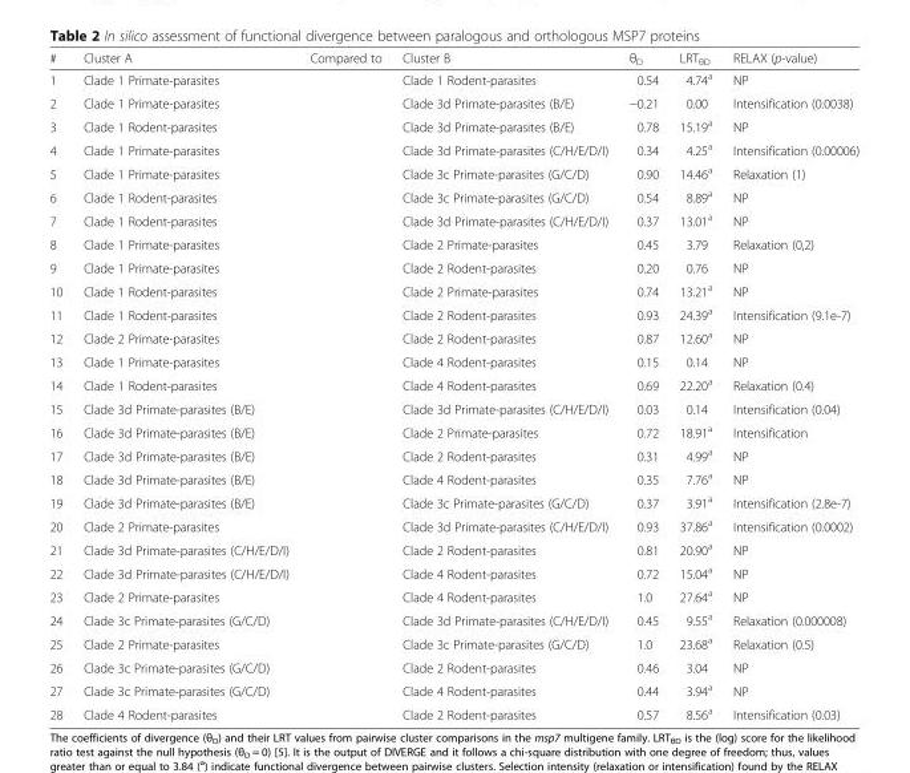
<table><thead><tr><td>#</td><td>Cluster A</td><td>Compared to</td><td>Cluster B</td><td>θ<sub>D</sub></td><td>LRT<sub>θD</sub></td><td>RELAX (p-value)</td></tr></thead><tbody><tr><td>1</td><td>Clade 1 Primate-parasites</td><td></td><td>Clade 1 Rodent-parasites</td><td>0.54</td><td>4.74<sup>a</sup></td><td>NP</td></tr><tr><td>2</td><td>Clade 1 Primate-parasites</td><td></td><td>Clade 3d Primate-parasites (B/E)</td><td>−0.21</td><td>0.00</td><td>Intensification (0.0038)</td></tr><tr><td>3</td><td>Clade 1 Rodent-parasites</td><td></td><td>Clade 3d Primate-parasites (B/E)</td><td>0.78</td><td>15.19<sup>a</sup></td><td>NP</td></tr><tr><td>4</td><td>Clade 1 Primate-parasites</td><td></td><td>Clade 3d Primate-parasites (C/H/E/D/I)</td><td>0.34</td><td>4.25<sup>a</sup></td><td>Intensification (0.00006)</td></tr><tr><td>5</td><td>Clade 1 Primate-parasites</td><td></td><td>Clade 3c Primate-parasites (G/C/D)</td><td>0.90</td><td>14.46<sup>a</sup></td><td>Relaxation (1)</td></tr><tr><td>6</td><td>Clade 1 Rodent-parasites</td><td></td><td>Clade 3c Primate-parasites (G/C/D)</td><td>0.54</td><td>8.89<sup>a</sup></td><td>NP</td></tr><tr><td>7</td><td>Clade 1 Rodent-parasites</td><td></td><td>Clade 3d Primate-parasites (C/H/E/D/I)</td><td>0.37</td><td>13.01<sup>a</sup></td><td>NP</td></tr><tr><td>8</td><td>Clade 1 Primate-parasites</td><td></td><td>Clade 2 Primate-parasites</td><td>0.45</td><td>3.79</td><td>Relaxation (0,2)</td></tr><tr><td>9</td><td>Clade 1 Primate-parasites</td><td></td><td>Clade 2 Rodent-parasites</td><td>0.20</td><td>0.76</td><td>NP</td></tr><tr><td>10</td><td>Clade 1 Rodent-parasites</td><td></td><td>Clade 2 Primate-parasites</td><td>0.74</td><td>13.21<sup>a</sup></td><td>NP</td></tr><tr><td>11</td><td>Clade 1 Rodent-parasites</td><td></td><td>Clade 2 Rodent-parasites</td><td>0.93</td><td>24.39<sup>a</sup></td><td>Intensification (9.1e-7)</td></tr><tr><td>12</td><td>Clade 2 Primate-parasites</td><td></td><td>Clade 2 Rodent-parasites</td><td>0.87</td><td>12.60<sup>a</sup></td><td>NP</td></tr><tr><td>13</td><td>Clade 1 Primate-parasites</td><td></td><td>Clade 4 Rodent-parasites</td><td>0.15</td><td>0.14</td><td>NP</td></tr><tr><td>14</td><td>Clade 1 Rodent-parasites</td><td></td><td>Clade 4 Rodent-parasites</td><td>0.69</td><td>22.20<sup>a</sup></td><td>Relaxation (0.4)</td></tr><tr><td>15</td><td>Clade 3d Primate-parasites (B/E)</td><td></td><td>Clade 3d Primate-parasites (C/H/E/D/I)</td><td>0.03</td><td>0.14</td><td>Intensification (0.04)</td></tr><tr><td>16</td><td>Clade 3d Primate-parasites (B/E)</td><td></td><td>Clade 2 Primate-parasites</td><td>0.72</td><td>18.91<sup>a</sup></td><td>Intensification</td></tr><tr><td>17</td><td>Clade 3d Primate-parasites (B/E)</td><td></td><td>Clade 2 Rodent-parasites</td><td>0.31</td><td>4.99<sup>a</sup></td><td>NP</td></tr><tr><td>18</td><td>Clade 3d Primate-parasites (B/E)</td><td></td><td>Clade 4 Rodent-parasites</td><td>0.35</td><td>7.76<sup>a</sup></td><td>NP</td></tr><tr><td>19</td><td>Clade 3d Primate-parasites (B/E)</td><td></td><td>Clade 3c Primate-parasites (G/C/D)</td><td>0.37</td><td>3.91<sup>a</sup></td><td>Intensification (2.8e-7)</td></tr><tr><td>20</td><td>Clade 2 Primate-parasites</td><td></td><td>Clade 3d Primate-parasites (C/H/E/D/I)</td><td>0.93</td><td>37.86<sup>a</sup></td><td>Intensification (0.0002)</td></tr><tr><td>21</td><td>Clade 3d Primate-parasites (C/H/E/D/I)</td><td></td><td>Clade 2 Rodent-parasites</td><td>0.81</td><td>20.90<sup>a</sup></td><td>NP</td></tr><tr><td>22</td><td>Clade 3d Primate-parasites (C/H/E/D/I)</td><td></td><td>Clade 4 Rodent-parasites</td><td>0.72</td><td>15.04<sup>a</sup></td><td>NP</td></tr><tr><td>23</td><td>Clade 2 Primate-parasites</td><td></td><td>Clade 4 Rodent-parasites</td><td>1.0</td><td>27.64<sup>a</sup></td><td>NP</td></tr><tr><td>24</td><td>Clade 3c Primate-parasites (G/C/D)</td><td></td><td>Clade 3d Primate-parasites (C/H/E/D/I)</td><td>0.45</td><td>9.55<sup>a</sup></td><td>Relaxation (0.000008)</td></tr><tr><td>25</td><td>Clade 2 Primate-parasites</td><td></td><td>Clade 3c Primate-parasites (G/C/D)</td><td>1.0</td><td>23.68<sup>a</sup></td><td>Relaxation (0.5)</td></tr><tr><td>26</td><td>Clade 3c Primate-parasites (G/C/D)</td><td></td><td>Clade 2 Rodent-parasites</td><td>0.46</td><td>3.04</td><td>NP</td></tr><tr><td>27</td><td>Clade 3c Primate-parasites (G/C/D)</td><td></td><td>Clade 4 Rodent-parasites</td><td>0.44</td><td>3.94<sup>a</sup></td><td>NP</td></tr><tr><td>28</td><td>Clade 4 Rodent-parasites</td><td></td><td>Clade 2 Rodent-parasites</td><td>0.57</td><td>8.56<sup>a</sup></td><td>Intensification (0.03)</td></tr></tbody></table>